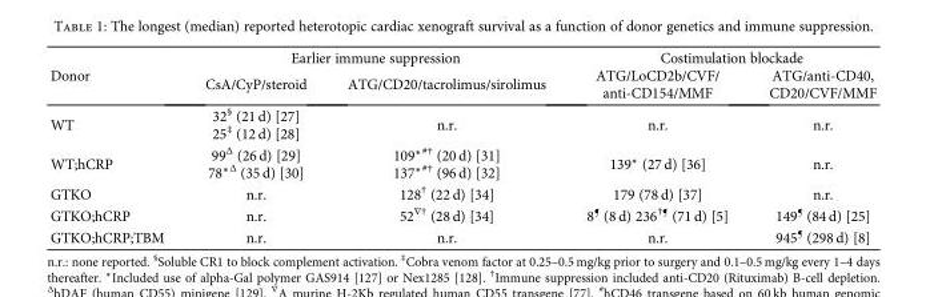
<table><thead><tr><td rowspan="2">Donor</td><td colspan="2">Earlier immune suppression</td><td colspan="2">Costimulation blockade</td></tr><tr><td>CsA/CyP/steroid</td><td>ATG/CD20/tacrolimus/sirolimus</td><td>ATG/LoCD2b/CVF/ anti-CD154/MMF</td><td>ATG/anti-CD40, CD20/CVF/MMF</td></tr></thead><tbody><tr><td>WT</td><td>32<sup>§</sup> (21 d) [27] 25<sup>‡</sup> (12 d) [28]</td><td>n.r.</td><td>n.r.</td><td>n.r.</td></tr><tr><td>WT;hCRP</td><td>99<sup>Δ</sup> (26 d) [29] 78<sup>∗Δ</sup> (35 d) [30]</td><td>109<sup>∗#†</sup> (20 d) [31] 137<sup>∗#†</sup> (96 d) [32]</td><td>139∗ (27 d) [36]</td><td>n.r.</td></tr><tr><td>GTKO</td><td>n.r.</td><td>128<sup>†</sup> (22 d) [34]</td><td>179 (78 d) [37]</td><td>n.r.</td></tr><tr><td>GTKO;hCRP</td><td>n.r.</td><td>52<sup>∇†</sup> (28 d) [34]</td><td>8<sup>¶</sup> (8 d) 236<sup>†¶</sup> (71 d) [5]</td><td>149<sup>¶</sup> (84 d) [25]</td></tr><tr><td>GTKO;hCRP;TBM</td><td>n.r.</td><td>n.r.</td><td>n.r.</td><td>945<sup>¶</sup> (298 d) [8]</td></tr></tbody></table>